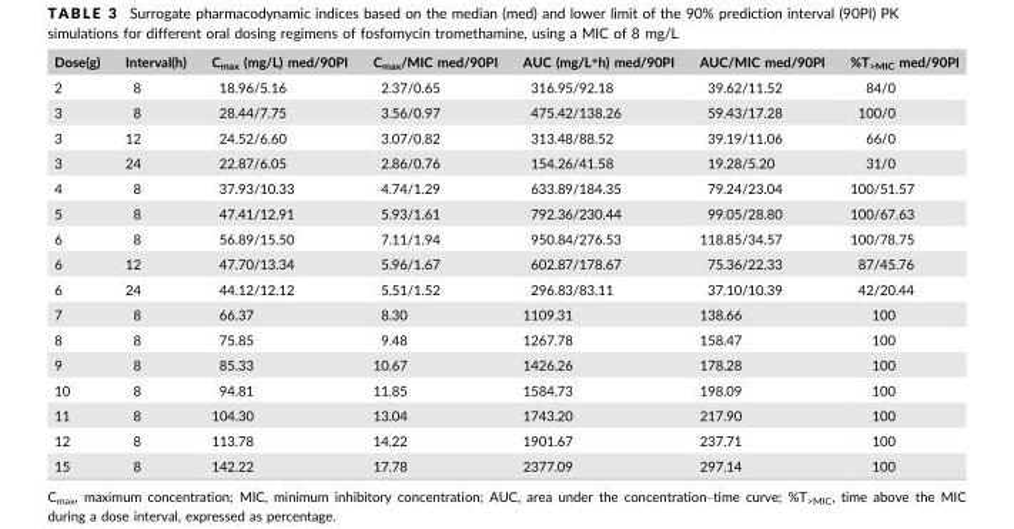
<table><thead><tr><td>Dose(g)</td><td>Interval(h)</td><td>C<sub>max</sub> (mg/L) med/90PI</td><td>C<sub>max</sub>/MIC med/90PI</td><td>AUC (mg/L*h) med/90PI</td><td>AUC/MIC med/90PI</td><td>%T<sub>&gt;MIC</sub> med/90PI</td></tr></thead><tbody><tr><td>2</td><td>8</td><td>18.96/5.16</td><td>2.37/0.65</td><td>316.95/92.18</td><td>39.62/11.52</td><td>84/0</td></tr><tr><td>3</td><td>8</td><td>28.44/7.75</td><td>3.56/0.97</td><td>475.42/138.26</td><td>59.43/17.28</td><td>100/0</td></tr><tr><td>3</td><td>12</td><td>24.52/6.60</td><td>3.07/0.82</td><td>313.48/88.52</td><td>39.19/11.06</td><td>66/0</td></tr><tr><td>3</td><td>24</td><td>22.87/6.05</td><td>2.86/0.76</td><td>154.26/41.58</td><td>19.28/5.20</td><td>31/0</td></tr><tr><td>4</td><td>8</td><td>37.93/10.33</td><td>4.74/1.29</td><td>633.89/184.35</td><td>79.24/23.04</td><td>100/51.57</td></tr><tr><td>5</td><td>8</td><td>47.41/12.91</td><td>5.93/1.61</td><td>792.36/230.44</td><td>99.05/28.80</td><td>100/67.63</td></tr><tr><td>6</td><td>8</td><td>56.89/15.50</td><td>7.11/1.94</td><td>950.84/276.53</td><td>118.85/34.57</td><td>100/78.75</td></tr><tr><td>6</td><td>12</td><td>47.70/13.34</td><td>5.96/1.67</td><td>602.87/178.67</td><td>75.36/22.33</td><td>87/45.76</td></tr><tr><td>6</td><td>24</td><td>44.12/12.12</td><td>5.51/1.52</td><td>296.83/83.11</td><td>37.10/10.39</td><td>42/20.44</td></tr><tr><td>7</td><td>8</td><td>66.37</td><td>8.30</td><td>1109.31</td><td>138.66</td><td>100</td></tr><tr><td>8</td><td>8</td><td>75.85</td><td>9.48</td><td>1267.78</td><td>158.47</td><td>100</td></tr><tr><td>9</td><td>8</td><td>85.33</td><td>10.67</td><td>1426.26</td><td>178.28</td><td>100</td></tr><tr><td>10</td><td>8</td><td>94.81</td><td>11.85</td><td>1584.73</td><td>198.09</td><td>100</td></tr><tr><td>11</td><td>8</td><td>104.30</td><td>13.04</td><td>1743.20</td><td>217.90</td><td>100</td></tr><tr><td>12</td><td>8</td><td>113.78</td><td>14.22</td><td>1901.67</td><td>237.71</td><td>100</td></tr><tr><td>15</td><td>8</td><td>142.22</td><td>17.78</td><td>2377.09</td><td>297.14</td><td>100</td></tr></tbody></table>